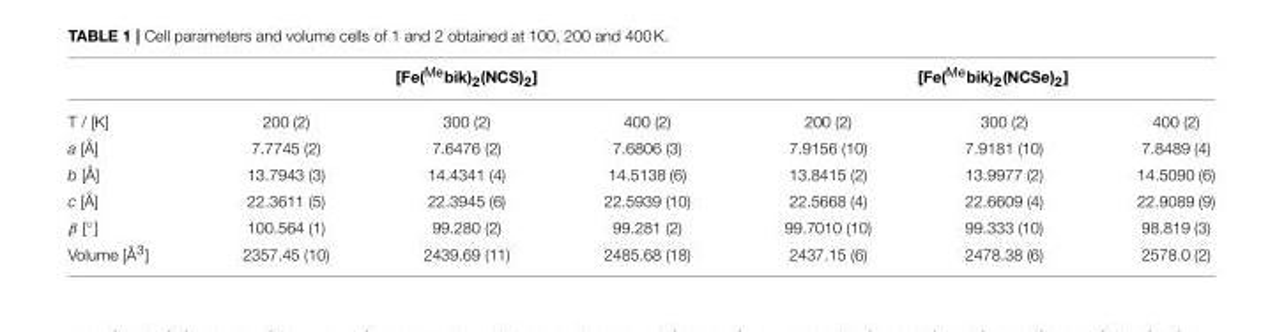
<table><thead><tr><td rowspan="2">T / [K]</td><td colspan="3">[Fe(<sup>Me</sup>bik)<sub>2</sub>(NCS)<sub>2</sub>]</td><td colspan="3">[Fe(<sup>Me</sup>bik)<sub>2</sub>(NCSe)<sub>2</sub>]</td></tr><tr><td>200 (2)</td><td>300 (2)</td><td>400 (2)</td><td>200 (2)</td><td>300 (2)</td><td>400 (2)</td></tr></thead><tbody><tr><td>a [Å]</td><td>7.7745 (2)</td><td>7.6476 (2)</td><td>7.6806 (3)</td><td>7.9156 (10)</td><td>7.9181 (10)</td><td>7.8489 (4)</td></tr><tr><td>b [Å]</td><td>13.7943 (3)</td><td>14.4341 (4)</td><td>14.5138 (6)</td><td>13.8415 (2)</td><td>13.9977 (2)</td><td>14.5090 (6)</td></tr><tr><td>c [Å]</td><td>22.3611 (5)</td><td>22.3945 (6)</td><td>22.5939 (10)</td><td>22.5668 (4)</td><td>22.6609 (4)</td><td>22.9089 (9)</td></tr><tr><td>β [◦]</td><td>100.564 (1)</td><td>99.280 (2)</td><td>99.281 (2)</td><td>99.7010 (10)</td><td>99.333 (10)</td><td>98.819 (3)</td></tr><tr><td>Volume [Å<sup>3</sup>]</td><td>2357.45 (10)</td><td>2439.69 (11)</td><td>2485.68 (18)</td><td>2437.15 (6)</td><td>2478.38 (6)</td><td>2578.0 (2)</td></tr></tbody></table>